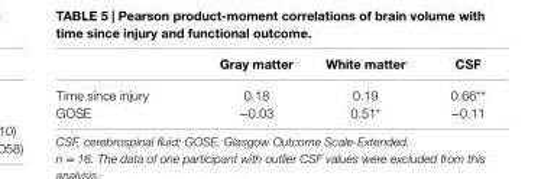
<table><thead><tr><td></td><td>gray matter</td><td>White matter</td><td>csF</td></tr></thead><tbody><tr><td>Time since injury</td><td>0.18</td><td>0.19</td><td>0.66**</td></tr><tr><td>GOSE</td><td>−0.03</td><td>0.51*</td><td>−0.11</td></tr></tbody></table>